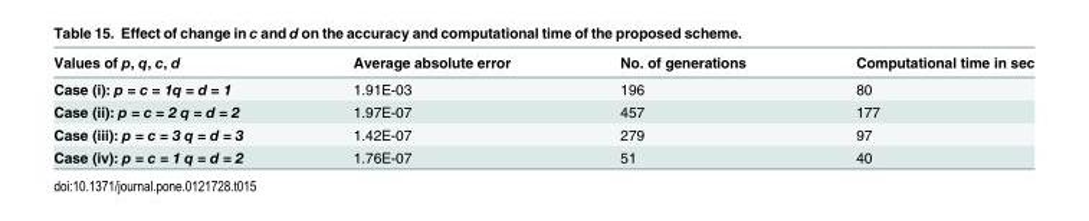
<table><thead><tr><td>Values of p, q, c, d</td><td>Average absolute error</td><td>No. of generations</td><td>Computational time in sec</td></tr></thead><tbody><tr><td>Case (i): p = c = 1q = d = 1</td><td>1.91E-03</td><td>196</td><td>80</td></tr><tr><td>Case (ii): p = c = 2 q = d = 2</td><td>1.97E-07</td><td>457</td><td>177</td></tr><tr><td>Case (iii): p = c = 3 q = d = 3</td><td>1.42E-07</td><td>279</td><td>97</td></tr><tr><td>Case (iv): p = c = 1 q = d = 2</td><td>1.76E-07</td><td>51</td><td>40</td></tr></tbody></table>